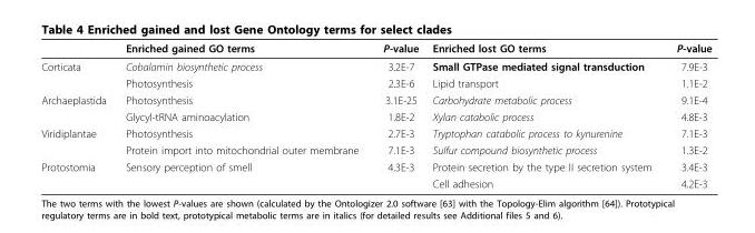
<table><thead><tr><td></td><td>Enriched gained GO terms</td><td>P-value</td><td>Enriched lost GO terms</td><td>P-value</td></tr></thead><tbody><tr><td rowspan="2">Corticata</td><td>Cobalamin biosynthetic process</td><td>3.2E-7</td><td>Small GTPase mediated signal transduction</td><td>7.9E-3</td></tr><tr><td>Photosynthesis</td><td>2.3E-6</td><td>Lipid transport</td><td>1.1E-2</td></tr><tr><td rowspan="2">Archaeplastida</td><td>Photosynthesis</td><td>3.1E-25</td><td>Carbohydrate metabolic process</td><td>9.1E-4</td></tr><tr><td>Glycyl-tRNA aminoacylation</td><td>1.8E-2</td><td>Xylan catabolic process</td><td>4.8E-3</td></tr><tr><td rowspan="2">Viridiplantae</td><td>Photosynthesis</td><td>2.7E-3</td><td>Tryptophan catabolic process to kynurenine</td><td>7.1E-3</td></tr><tr><td>Protein import into mitochondrial outer membrane</td><td>7.1E-3</td><td>Sulfur compound biosynthetic process</td><td>1.3E-2</td></tr><tr><td rowspan="2">Protostomia</td><td>Sensory perception of smell</td><td>4.3E-3</td><td>Protein secretion by the type II secretion system</td><td>3.4E-3</td></tr><tr><td></td><td></td><td>Cell adhesion</td><td>4.2E-3</td></tr></tbody></table>